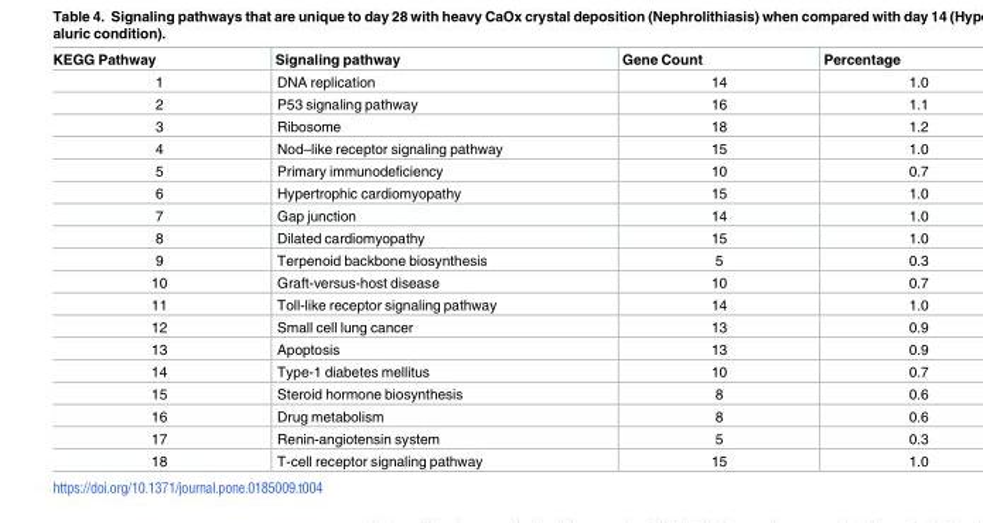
<table><thead><tr><td>KEGG Pathway</td><td>Signaling pathway</td><td>Gene Count</td><td>Percentage</td></tr></thead><tbody><tr><td>1</td><td>DNA replication</td><td>14</td><td>1.0</td></tr><tr><td>2</td><td>P53 signaling pathway</td><td>16</td><td>1.1</td></tr><tr><td>3</td><td>Ribosome</td><td>18</td><td>1.2</td></tr><tr><td>4</td><td>Nod–like receptor signaling pathway</td><td>15</td><td>1.0</td></tr><tr><td>5</td><td>Primary immunodeficiency</td><td>10</td><td>0.7</td></tr><tr><td>6</td><td>Hypertrophic cardiomyopathy</td><td>15</td><td>1.0</td></tr><tr><td>7</td><td>Gap junction</td><td>14</td><td>1.0</td></tr><tr><td>8</td><td>Dilated cardiomyopathy</td><td>15</td><td>1.0</td></tr><tr><td>9</td><td>Terpenoid backbone biosynthesis</td><td>5</td><td>0.3</td></tr><tr><td>10</td><td>Graft-versus-host disease</td><td>10</td><td>0.7</td></tr><tr><td>11</td><td>Toll-like receptor signaling pathway</td><td>14</td><td>1.0</td></tr><tr><td>12</td><td>Small cell lung cancer</td><td>13</td><td>0.9</td></tr><tr><td>13</td><td>Apoptosis</td><td>13</td><td>0.9</td></tr><tr><td>14</td><td>Type-1 diabetes mellitus</td><td>10</td><td>0.7</td></tr><tr><td>15</td><td>Steroid hormone biosynthesis</td><td>8</td><td>0.6</td></tr><tr><td>16</td><td>Drug metabolism</td><td>8</td><td>0.6</td></tr><tr><td>17</td><td>Renin-angiotensin system</td><td>5</td><td>0.3</td></tr><tr><td>18</td><td>T-cell receptor signaling pathway</td><td>15</td><td>1.0</td></tr></tbody></table>